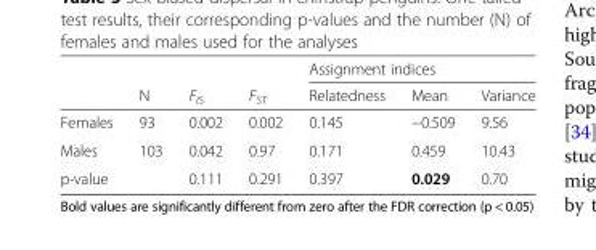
<table><thead><tr><td rowspan="2"></td><td rowspan="2">N</td><td rowspan="2">F<sub>IS</sub></td><td rowspan="2">F<sub>ST</sub></td><td colspan="3">Assignment indices</td></tr><tr><td>Relatedness</td><td>Mean</td><td>Variance</td></tr></thead><tbody><tr><td>Females</td><td>93</td><td>0.002</td><td>0.002</td><td>0.145</td><td>−0.509</td><td>9.56</td></tr><tr><td>Males</td><td>103</td><td>0.042</td><td>0.97</td><td>0.171</td><td>0.459</td><td>10.43</td></tr><tr><td>p-value</td><td></td><td>0.111</td><td>0.291</td><td>0.397</td><td>0.029</td><td>0.70</td></tr></tbody></table>